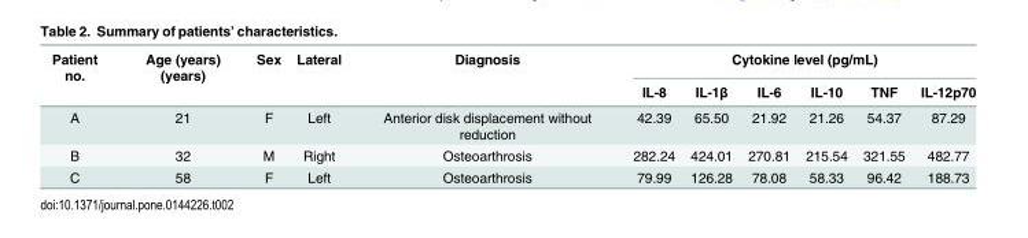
<table><thead><tr><td rowspan="2">Patient no.</td><td rowspan="2">Age (years) (years)</td><td rowspan="2">Sex</td><td rowspan="2">Lateral</td><td rowspan="2">Diagnosis</td><td colspan="6">Cytokine level (pg/mL)</td></tr><tr><td>IL-8</td><td>IL-1β</td><td>IL-6</td><td>IL-10</td><td>TNF</td><td>IL-12p70</td></tr></thead><tbody><tr><td>A</td><td>21</td><td>F</td><td>Left</td><td>Anterior disk displacement without reduction</td><td>42.39</td><td>65.50</td><td>21.92</td><td>21.26</td><td>54.37</td><td>87.29</td></tr><tr><td>B</td><td>32</td><td>M</td><td>Right</td><td>Osteoarthrosis</td><td>282.24</td><td>424.01</td><td>270.81</td><td>215.54</td><td>321.55</td><td>482.77</td></tr><tr><td>C</td><td>58</td><td>F</td><td>Left</td><td>Osteoarthrosis</td><td>79.99</td><td>126.28</td><td>78.08</td><td>58.33</td><td>96.42</td><td>188.73</td></tr></tbody></table>